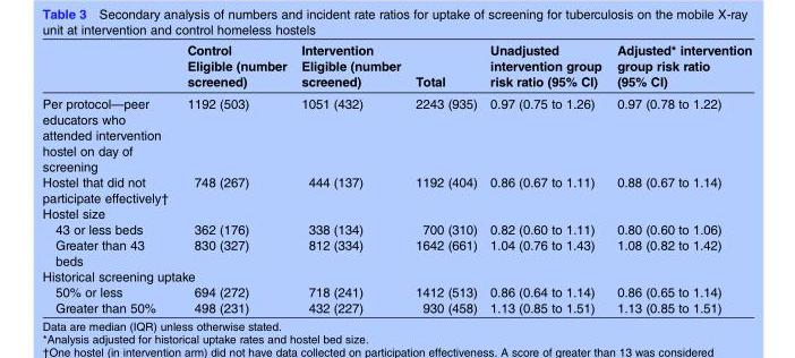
<table><thead><tr><td></td><td>Control Eligible (number screened)</td><td>Intervention Eligible (number screened)</td><td>Total</td><td>Unadjusted intervention group risk ratio (95% CI)</td><td>Adjusted* intervention group risk ratio (95% CI)</td></tr></thead><tbody><tr><td>Per protocol—peer educators who attended intervention hostel on day of screening</td><td>1192 (503)</td><td>1051 (432)</td><td>2243 (935)</td><td>0.97 (0.75 to 1.26)</td><td>0.97 (0.78 to 1.22)</td></tr><tr><td>Hostel that did not participate effectively†</td><td>748 (267)</td><td>444 (137)</td><td>1192 (404)</td><td>0.86 (0.67 to 1.11)</td><td>0.88 (0.67 to 1.14)</td></tr><tr><td colspan="6">Hostel size</td></tr><tr><td>43 or less beds</td><td>362 (176)</td><td>338 (134)</td><td>700 (310)</td><td>0.82 (0.60 to 1.11)</td><td>0.80 (0.60 to 1.06)</td></tr><tr><td>Greater than 43 beds</td><td>830 (327)</td><td>812 (334)</td><td>1642 (661)</td><td>1.04 (0.76 to 1.43)</td><td>1.08 (0.82 to 1.42)</td></tr><tr><td colspan="6">Historical screening uptake</td></tr><tr><td>50% or less</td><td>694 (272)</td><td>718 (241)</td><td>1412 (513)</td><td>0.86 (0.64 to 1.14)</td><td>0.86 (0.65 to 1.14)</td></tr><tr><td>Greater than 50%</td><td>498 (231)</td><td>432 (227)</td><td>930 (458)</td><td>1.13 (0.85 to 1.51)</td><td>1.13 (0.85 to 1.51)</td></tr></tbody></table>